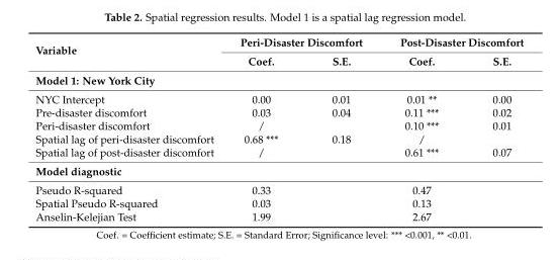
<table><thead><tr><td rowspan="2">Variable</td><td colspan="2">Peri-Disaster Discomfort</td><td colspan="2">Post-Disaster Discomfort</td></tr><tr><td>Coef.</td><td>S.E.</td><td>Coef.</td><td>S.E.</td></tr></thead><tbody><tr><td colspan="5">Model 1: New York City</td></tr><tr><td>NYC Intercept</td><td>0.00</td><td>0.01</td><td>0.01 **</td><td>0.00</td></tr><tr><td>Pre-disaster discomfort</td><td>0.03</td><td>0.04</td><td>0.11 ***</td><td>0.02</td></tr><tr><td>Peri-disaster discomfort</td><td>/</td><td></td><td>0.10 ***</td><td>0.01</td></tr><tr><td>Spatial lag of peri-disaster discomfort</td><td>0.68 ***</td><td>0.18</td><td>/</td><td></td></tr><tr><td>Spatial lag of post-disaster discomfort</td><td>/</td><td></td><td>0.61 ***</td><td>0.07</td></tr><tr><td colspan="5">Model diagnostic</td></tr><tr><td>Pseudo R-squared</td><td>0.33</td><td></td><td>0.47</td><td></td></tr><tr><td>Spatial Pseudo R-squared</td><td>0.03</td><td></td><td>0.13</td><td></td></tr><tr><td>Anselin-Kelejian Test</td><td>1.99</td><td></td><td>2.67</td><td></td></tr></tbody></table>